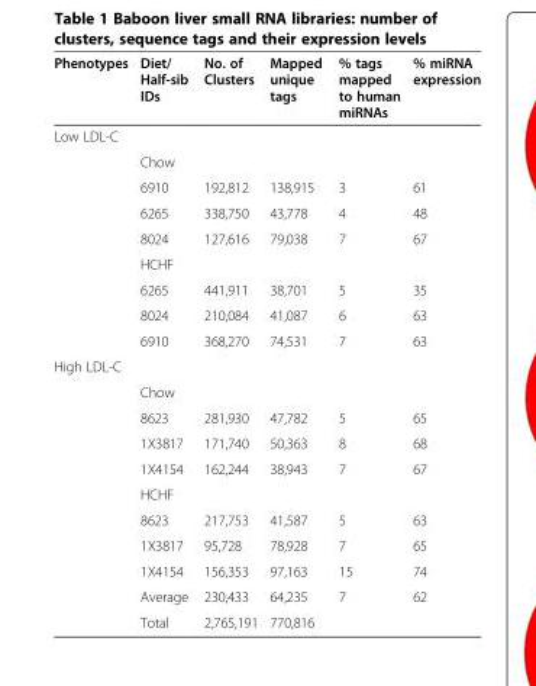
<table><thead><tr><td>Phenotypes</td><td>Diet/ Half-sib IDs</td><td>No. of Clusters</td><td>Mapped unique tags</td><td>% tags mapped to human miRNAs</td><td>% miRNA expression</td></tr></thead><tbody><tr><td colspan="6">Low LDL-C</td></tr><tr><td></td><td colspan="5">Chow</td></tr><tr><td></td><td>6910</td><td>192,812</td><td>138,915</td><td>3</td><td>61</td></tr><tr><td></td><td>6265</td><td>338,750</td><td>43,778</td><td>4</td><td>48</td></tr><tr><td></td><td>8024</td><td>127,616</td><td>79,038</td><td>7</td><td>67</td></tr><tr><td></td><td colspan="5">HCHF</td></tr><tr><td></td><td>6265</td><td>441,911</td><td>38,701</td><td>5</td><td>35</td></tr><tr><td></td><td>8024</td><td>210,084</td><td>41,087</td><td>6</td><td>63</td></tr><tr><td></td><td>6910</td><td>368,270</td><td>74,531</td><td>7</td><td>63</td></tr><tr><td colspan="6">High LDL-C</td></tr><tr><td></td><td colspan="5">Chow</td></tr><tr><td></td><td>8623</td><td>281,930</td><td>47,782</td><td>5</td><td>65</td></tr><tr><td></td><td>1X3817</td><td>171,740</td><td>50,363</td><td>8</td><td>68</td></tr><tr><td></td><td>1X4154</td><td>162,244</td><td>38,943</td><td>7</td><td>67</td></tr><tr><td></td><td colspan="5">HCHF</td></tr><tr><td></td><td>8623</td><td>217,753</td><td>41,587</td><td>5</td><td>63</td></tr><tr><td></td><td>1X3817</td><td>95,728</td><td>78,928</td><td>7</td><td>65</td></tr><tr><td></td><td>1X4154</td><td>156,353</td><td>97,163</td><td>15</td><td>74</td></tr><tr><td></td><td>Average</td><td>230,433</td><td>64,235</td><td>7</td><td>62</td></tr><tr><td></td><td>Total</td><td>2,765,191</td><td>770,816</td><td></td><td></td></tr></tbody></table>